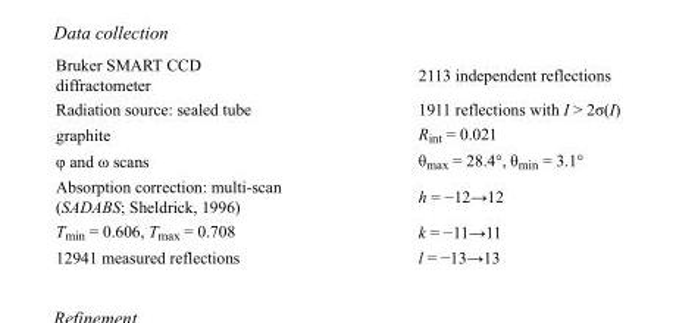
<table><tbody><tr><td>Bruker SMART CCD diffractometer</td><td>2113 independent reflections</td></tr><tr><td>Radiation source: sealed tube</td><td>1911 reflections with I &gt; 2σ(I)</td></tr><tr><td>graphite</td><td>R<sub>int</sub> = 0.021</td></tr><tr><td>φ and ω scans</td><td>θ<sub>max</sub> = 28.4°, θ<sub>min</sub> = 3.1°</td></tr><tr><td>Absorption correction: multi-scan (SADABS; Sheldrick, 1996)</td><td>h = −12→12</td></tr><tr><td>T<sub>min</sub> = 0.606, T<sub>max</sub> = 0.708</td><td>k = −11→11</td></tr><tr><td>12941 measured reflections</td><td>l = −13→13</td></tr></tbody></table>